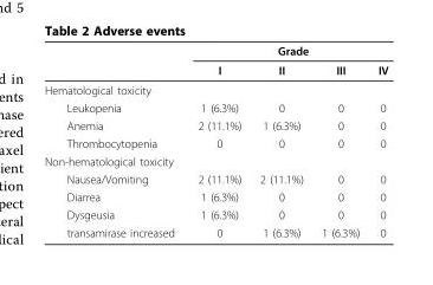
<table><thead><tr><td rowspan="2"></td><td colspan="4">Grade</td></tr><tr><td>I</td><td>II</td><td>III</td><td>IV</td></tr></thead><tbody><tr><td colspan="5">Hematological toxicity</td></tr><tr><td>Leukopenia</td><td>1 (6.3%)</td><td>0</td><td>0</td><td>0</td></tr><tr><td>Anemia</td><td>2 (11.1%)</td><td>1 (6.3%)</td><td>0</td><td>0</td></tr><tr><td>Thrombocytopenia</td><td>0</td><td>0</td><td>0</td><td>0</td></tr><tr><td colspan="5">Non-hematological toxicity</td></tr><tr><td>Nausea/Vomiting</td><td>2 (11.1%)</td><td>2 (11.1%)</td><td>0</td><td>0</td></tr><tr><td>Diarrea</td><td>1 (6.3%)</td><td>0</td><td>0</td><td>0</td></tr><tr><td>Dysgeusia</td><td>1 (6.3%)</td><td>0</td><td>0</td><td>0</td></tr><tr><td>transamirase increased</td><td>0</td><td>1 (6.3%)</td><td>1 (6.3%)</td><td>0</td></tr></tbody></table>